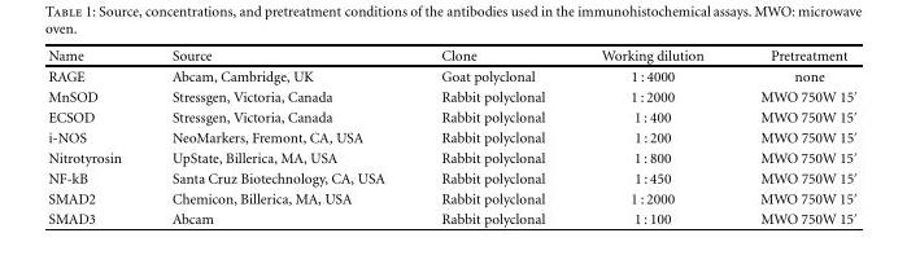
<table><thead><tr><td>Name</td><td>Source</td><td>Clone</td><td>Working dilution</td><td>Pretreatment</td></tr></thead><tbody><tr><td>RAGE</td><td>Abcam, Cambridge, UK</td><td>Goat polyclonal</td><td>1 : 4000</td><td>none</td></tr><tr><td>MnSOD</td><td>Stressgen, Victoria, Canada</td><td>Rabbit polyclonal</td><td>1 : 2000</td><td>MWO 750W 15′</td></tr><tr><td>ECSOD</td><td>Stressgen, Victoria, Canada</td><td>Rabbit polyclonal</td><td>1 : 400</td><td>MWO 750W 15′</td></tr><tr><td>i-NOS</td><td>NeoMarkers, Fremont, CA, USA</td><td>Rabbit polyclonal</td><td>1 : 200</td><td>MWO 750W 15′</td></tr><tr><td>Nitrotyrosin</td><td>UpState, Billerica, MA, USA</td><td>Rabbit polyclonal</td><td>1 : 800</td><td>MWO 750W 15′</td></tr><tr><td>NF-kB</td><td>Santa Cruz Biotechnology, CA, USA</td><td>Rabbit polyclonal</td><td>1 : 450</td><td>MWO 750W 15′</td></tr><tr><td>SMAD2</td><td>Chemicon, Billerica, MA, USA</td><td>Rabbit polyclonal</td><td>1 : 2000</td><td>MWO 750W 15′</td></tr><tr><td>SMAD3</td><td>Abcam</td><td>Rabbit polyclonal</td><td>1 : 100</td><td>MWO 750W 15′</td></tr></tbody></table>